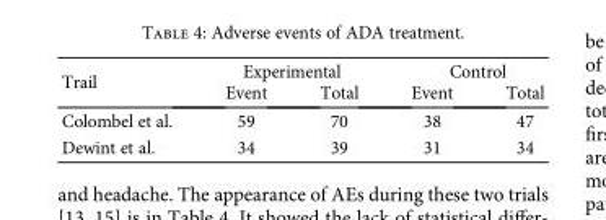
<table><thead><tr><td rowspan="2">Trail</td><td colspan="2">Experimental</td><td colspan="2">Control</td></tr><tr><td>Event</td><td>Total</td><td>Event</td><td>Total</td></tr></thead><tbody><tr><td>Colombel et al.</td><td>59</td><td>70</td><td>38</td><td>47</td></tr><tr><td>Dewint et al.</td><td>34</td><td>39</td><td>31</td><td>34</td></tr></tbody></table>